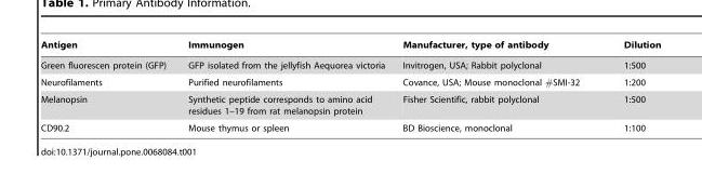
<table><thead><tr><td>Antigen</td><td>Immunogen</td><td>Manufacturer, type of antibody</td><td>Dilution</td></tr></thead><tbody><tr><td>Green fluorescen protein (GFP)</td><td>GFP isolated from the jellyfish Aequorea victoria</td><td>Invitrogen, USA; Rabbit polyclonal</td><td>1:500</td></tr><tr><td>Neurofilaments</td><td>Purified neurofilaments</td><td>Covance, USA; Mouse monoclonal #SMI-32</td><td>1:200</td></tr><tr><td>Melanopsin</td><td>Synthetic peptide corresponds to amino acid residues 1–19 from rat melanopsin protein</td><td>Fisher Scientific, rabbit polyclonal</td><td>1:500</td></tr><tr><td>CD90.2</td><td>Mouse thymus or spleen</td><td>BD Bioscience, monoclonal</td><td>1:100</td></tr></tbody></table>